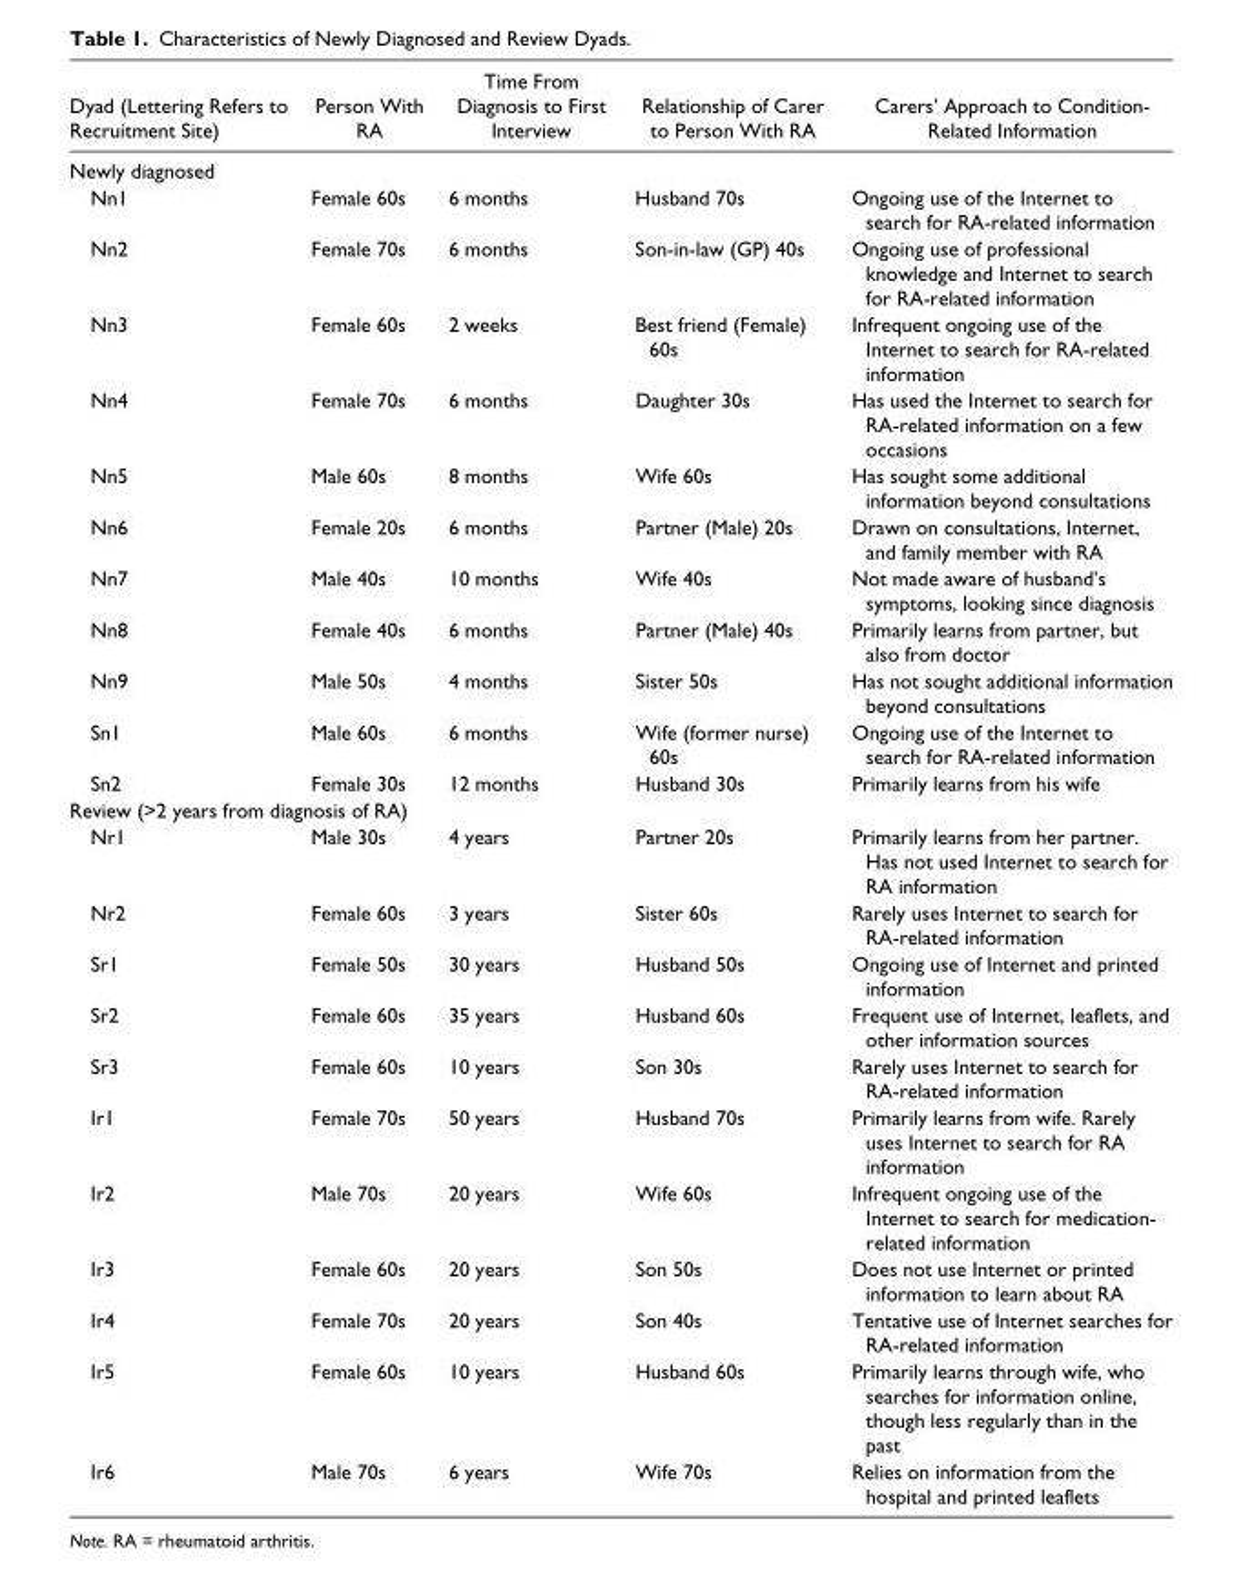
<table><thead><tr><td>Dyad (Lettering Refers to Recruitment Site)</td><td>Person With RA</td><td>Time From Diagnosis to First Interview</td><td>Relationship of Carer to Person With RA</td><td>Carers’ Approach to Condition- Related Information</td></tr></thead><tbody><tr><td colspan="5">Newly diagnosed</td></tr><tr><td>Nn1</td><td>Female 60s</td><td>6 months</td><td>Husband 70s</td><td>Ongoing use of the Internet to search for RA-related information</td></tr><tr><td>Nn2</td><td>Female 70s</td><td>6 months</td><td>Son-in-law (GP) 40s</td><td>Ongoing use of professional knowledge and Internet to search for RA-related information</td></tr><tr><td>Nn3</td><td>Female 60s</td><td>2 weeks</td><td>Best friend (Female) 60s</td><td>Infrequent ongoing use of the Internet to search for RA-related information</td></tr><tr><td>Nn4</td><td>Female 70s</td><td>6 months</td><td>Daughter 30s</td><td>Has used the Internet to search for RA-related information on a few occasions</td></tr><tr><td>Nn5</td><td>Male 60s</td><td>8 months</td><td>Wife 60s</td><td>Has sought some additional information beyond consultations</td></tr><tr><td>Nn6</td><td>Female 20s</td><td>6 months</td><td>Partner (Male) 20s</td><td>Drawn on consultations, Internet, and family member with RA</td></tr><tr><td>Nn7</td><td>Male 40s</td><td>10 months</td><td>Wife 40s</td><td>Not made aware of husband’s symptoms, looking since diagnosis</td></tr><tr><td>Nn8</td><td>Female 40s</td><td>6 months</td><td>Partner (Male) 40s</td><td>Primarily learns from partner, but also from doctor</td></tr><tr><td>Nn9</td><td>Male 50s</td><td>4 months</td><td>Sister 50s</td><td>Has not sought additional information beyond consultations</td></tr><tr><td>Sn1</td><td>Male 60s</td><td>6 months</td><td>Wife (former nurse) 60s</td><td>Ongoing use of the Internet to search for RA-related information</td></tr><tr><td>Sn2</td><td>Female 30s</td><td>12 months</td><td>Husband 30s</td><td>Primarily learns from his wife</td></tr><tr><td colspan="5">Review (&gt;2 years from diagnosis of RA)</td></tr><tr><td>Nr1</td><td>Male 30s</td><td>4 years</td><td>Partner 20s</td><td>Primarily learns from her partner. Has not used Internet to search for RA information</td></tr><tr><td>Nr2</td><td>Female 60s</td><td>3 years</td><td>Sister 60s</td><td>Rarely uses Internet to search for RA-related information</td></tr><tr><td>Sr1</td><td>Female 50s</td><td>30 years</td><td>Husband 50s</td><td>Ongoing use of Internet and printed information</td></tr><tr><td>Sr2</td><td>Female 60s</td><td>35 years</td><td>Husband 60s</td><td>Frequent use of Internet, leaflets, and other information sources</td></tr><tr><td>Sr3</td><td>Female 60s</td><td>10 years</td><td>Son 30s</td><td>Rarely uses Internet to search for RA-related information</td></tr><tr><td>Ir1</td><td>Female 70s</td><td>50 years</td><td>Husband 70s</td><td>Primarily learns from wife. Rarely uses Internet to search for RA information</td></tr><tr><td>Ir2</td><td>Male 70s</td><td>20 years</td><td>Wife 60s</td><td>Infrequent ongoing use of the Internet to search for medication- related information</td></tr><tr><td>Ir3</td><td>Female 60s</td><td>20 years</td><td>Son 50s</td><td>Does not use Internet or printed information to learn about RA</td></tr><tr><td>Ir4</td><td>Female 70s</td><td>20 years</td><td>Son 40s</td><td>Tentative use of Internet searches for RA-related information</td></tr><tr><td>Ir5</td><td>Female 60s</td><td>10 years</td><td>Husband 60s</td><td>Primarily learns through wife, who searches for information online, though less regularly than in the past</td></tr><tr><td>Ir6</td><td>Male 70s</td><td>6 years</td><td>Wife 70s</td><td>Relies on information from the hospital and printed leaflets</td></tr></tbody></table>